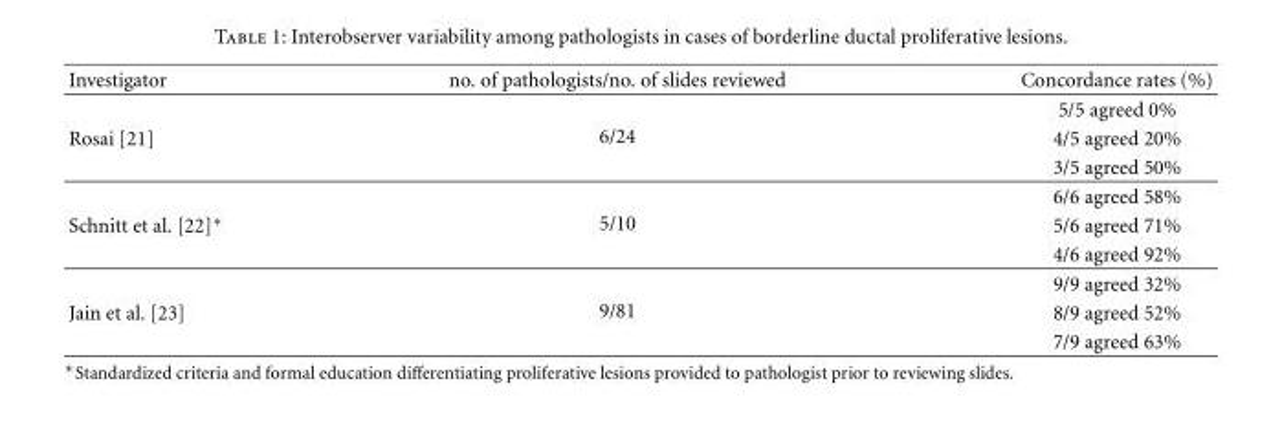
<table><thead><tr><td>Investigator</td><td>no. of pathologists/no. of slides reviewed</td><td>Concordance rates (%)</td></tr></thead><tbody><tr><td></td><td rowspan="3">6/24</td><td>5/5 agreed 0%</td></tr><tr><td rowspan="3">Rosai [21]</td><td>4/5 agreed 20%</td></tr><tr><td>3/5 agreed 50%</td></tr><tr><td rowspan="3">5/10</td><td>6/6 agreed 58%</td></tr><tr><td rowspan="3">Schnitt et al. [22]∗</td><td>5/6 agreed 71%</td></tr><tr><td>4/6 agreed 92%</td></tr><tr><td rowspan="3">9/81</td><td>9/9 agreed 32%</td></tr><tr><td rowspan="2">Jain et al. [23]</td><td>8/9 agreed 52%</td></tr><tr><td>7/9 agreed 63%</td></tr></tbody></table>